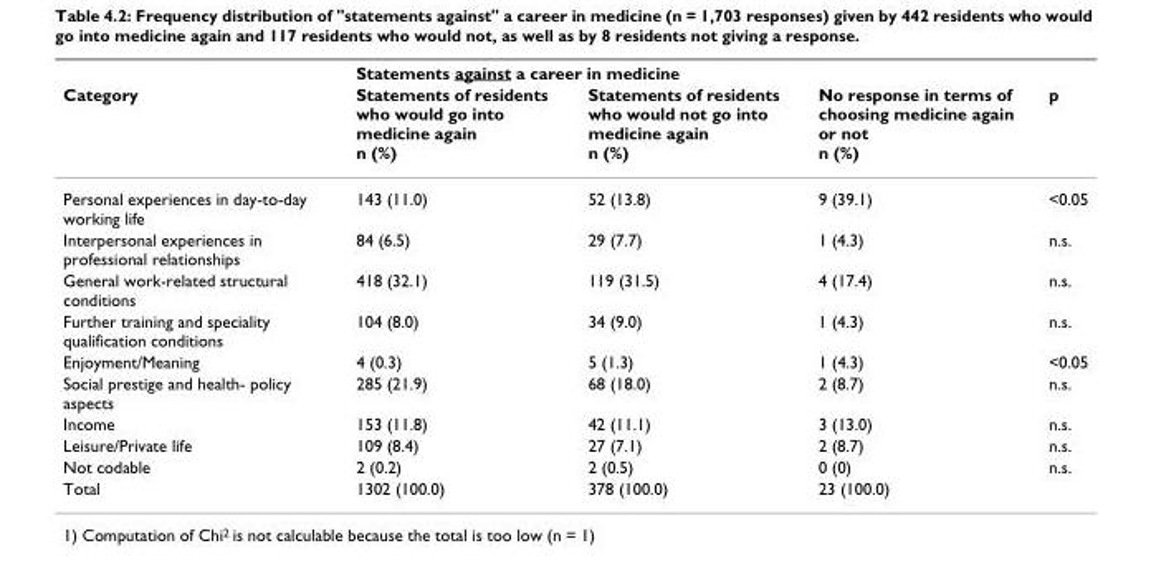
<table><thead><tr><td rowspan="2">Category</td><td colspan="4">Statements against a career in medicine</td></tr><tr><td>Statements of residents who would go into medicine again n (%)</td><td>Statements of residents who would not go into medicine again n (%)</td><td>No response in terms of choosing medicine again or not n (%)</td><td>p</td></tr></thead><tbody><tr><td>Personal experiences in day-to-day working life</td><td>143 (11.0)</td><td>52 (13.8)</td><td>9 (39.1)</td><td>&lt;0.05</td></tr><tr><td>Interpersonal experiences in professional relationships</td><td>84 (6.5)</td><td>29 (7.7)</td><td>1 (4.3)</td><td>n.s.</td></tr><tr><td>General work-related structural conditions</td><td>418 (32.1)</td><td>119 (31.5)</td><td>4 (17.4)</td><td>n.s.</td></tr><tr><td>Further training and speciality qualification conditions</td><td>104 (8.0)</td><td>34 (9.0)</td><td>1 (4.3)</td><td>n.s.</td></tr><tr><td>Enjoyment/Meaning</td><td>4 (0.3)</td><td>5 (1.3)</td><td>1 (4.3)</td><td>&lt;0.05</td></tr><tr><td>Social prestige and health- policy aspects</td><td>285 (21.9)</td><td>68 (18.0)</td><td>2 (8.7)</td><td>n.s.</td></tr><tr><td>Income</td><td>153 (11.8)</td><td>42 (11.1)</td><td>3 (13.0)</td><td>n.s.</td></tr><tr><td>Leisure/Private life</td><td>109 (8.4)</td><td>27 (7.1)</td><td>2 (8.7)</td><td>n.s.</td></tr><tr><td>Not codable</td><td>2 (0.2)</td><td>2 (0.5)</td><td>0 (0)</td><td>n.s.</td></tr><tr><td>Total</td><td>1302 (100.0)</td><td>378 (100.0)</td><td>23 (100.0)</td><td></td></tr></tbody></table>